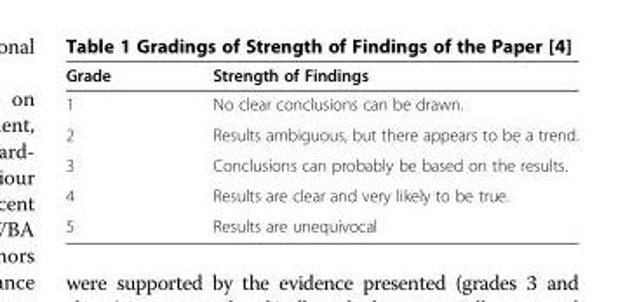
<table><thead><tr><td>Grade</td><td>Strength of Findings</td></tr></thead><tbody><tr><td>1</td><td>No clear conclusions can be drawn.</td></tr><tr><td>2</td><td>Results ambiguous, but there appears to be a trend.</td></tr><tr><td>3</td><td>Conclusions can probably be based on the results.</td></tr><tr><td>4</td><td>Results are clear and very likely to be true.</td></tr><tr><td>5</td><td>Results are unequivocal</td></tr></tbody></table>